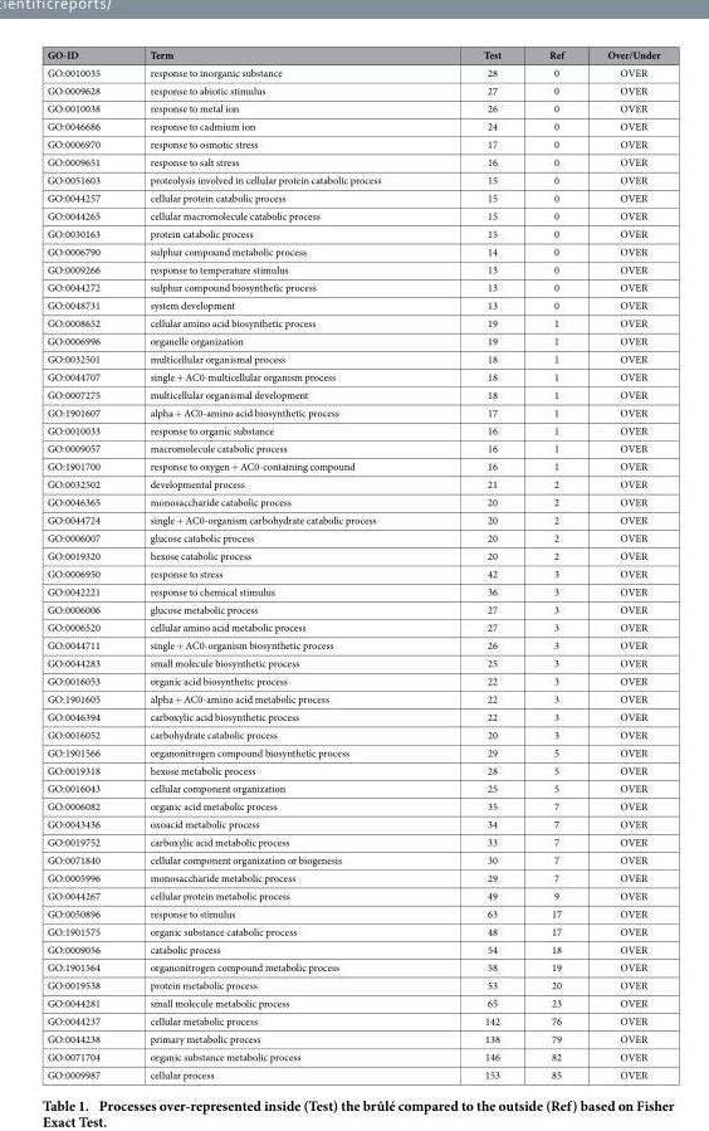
<table><thead><tr><td>GO-ID</td><td>Term</td><td>Test</td><td>Ref</td><td>Over/Under</td></tr></thead><tbody><tr><td>GO:0010035</td><td>response to inorganic substance</td><td>28</td><td>0</td><td>OVER</td></tr><tr><td>GO:0009628</td><td>response to abiotic stimulus</td><td>27</td><td>0</td><td>OVER</td></tr><tr><td>GO:0010038</td><td>response to metal ion</td><td>26</td><td>0</td><td>OVER</td></tr><tr><td>GO:0046686</td><td>response to cadmium ion</td><td>24</td><td>0</td><td>OVER</td></tr><tr><td>GO:0006970</td><td>response to osmotic stress</td><td>17</td><td>0</td><td>OVER</td></tr><tr><td>GO:0009651</td><td>response to salt stress</td><td>16</td><td>0</td><td>OVER</td></tr><tr><td>GO:0051603</td><td>proteolysis involved in cellular protein catabolic process</td><td>15</td><td>0</td><td>OVER</td></tr><tr><td>GO:0044257</td><td>cellular protein catabolic process</td><td>15</td><td>0</td><td>OVER</td></tr><tr><td>GO:0044265</td><td>cellular macromolecule catabolic process</td><td>15</td><td>0</td><td>OVER</td></tr><tr><td>GO:0030163</td><td>protein catabolic process</td><td>15</td><td>0</td><td>OVER</td></tr><tr><td>GO:0006790</td><td>sulphur compound metabolic process</td><td>14</td><td>0</td><td>OVER</td></tr><tr><td>GO:0009266</td><td>response to temperature stimulus</td><td>13</td><td>0</td><td>OVER</td></tr><tr><td>GO:0044272</td><td>sulphur compound biosynthetic process</td><td>13</td><td>0</td><td>OVER</td></tr><tr><td>GO:0048731</td><td>system development</td><td>13</td><td>0</td><td>OVER</td></tr><tr><td>GO:0008652</td><td>cellular amino acid biosynthetic process</td><td>19</td><td>1</td><td>OVER</td></tr><tr><td>GO:0006996</td><td>organelle organization</td><td>19</td><td>1</td><td>OVER</td></tr><tr><td>GO:0032501</td><td>multicellular organismal process</td><td>18</td><td>1</td><td>OVER</td></tr><tr><td>GO:0044707</td><td>single + AC0-multicellular organism process</td><td>18</td><td>1</td><td>OVER</td></tr><tr><td>GO:0007275</td><td>multicellular organismal development</td><td>18</td><td>1</td><td>OVER</td></tr><tr><td>GO:1901607</td><td>alpha + AC0-amino acid biosynthetic process</td><td>17</td><td>1</td><td>OVER</td></tr><tr><td>GO:0010033</td><td>response to organic substance</td><td>16</td><td>1</td><td>OVER</td></tr><tr><td>GO:0009057</td><td>macromolecule catabolic process</td><td>16</td><td>1</td><td>OVER</td></tr><tr><td>GO:1901700</td><td>response to oxygen + AC0-containing compound</td><td>16</td><td>1</td><td>OVER</td></tr><tr><td>GO:0032502</td><td>developmental process</td><td>21</td><td>2</td><td>OVER</td></tr><tr><td>GO:0046365</td><td>monosaccharide catabolic process</td><td>20</td><td>2</td><td>OVER</td></tr><tr><td>GO:0044724</td><td>single + AC0-organism carbohydrate catabolic process</td><td>20</td><td>2</td><td>OVER</td></tr><tr><td>GO:0006007</td><td>glucose catabolic process</td><td>20</td><td>2</td><td>OVER</td></tr><tr><td>GO:0019320</td><td>hexose catabolic process</td><td>20</td><td>2</td><td>OVER</td></tr><tr><td>GO:0006950</td><td>response to stress</td><td>42</td><td>3</td><td>OVER</td></tr><tr><td>GO:0042221</td><td>response to chemical stimulus</td><td>36</td><td>3</td><td>OVER</td></tr><tr><td>GO:0006006</td><td>glucose metabolic process</td><td>27</td><td>3</td><td>OVER</td></tr><tr><td>GO:0006520</td><td>cellular amino acid metabolic process</td><td>27</td><td>3</td><td>OVER</td></tr><tr><td>GO:0044711</td><td>single + AC0-organism biosynthetic process</td><td>26</td><td>3</td><td>OVER</td></tr><tr><td>GO:0044283</td><td>small molecule biosynthetic process</td><td>25</td><td>3</td><td>OVER</td></tr><tr><td>GO:0016053</td><td>organic acid biosynthetic process</td><td>22</td><td>3</td><td>OVER</td></tr><tr><td>GO:1901605</td><td>alpha + AC0-amino acid metabolic process</td><td>22</td><td>3</td><td>OVER</td></tr><tr><td>GO:0046394</td><td>carboxylic acid biosynthetic process</td><td>22</td><td>3</td><td>OVER</td></tr><tr><td>GO:0016052</td><td>carbohydrate catabolic process</td><td>20</td><td>3</td><td>OVER</td></tr><tr><td>GO:1901566</td><td>organonitrogen compound biosynthetic process</td><td>29</td><td>5</td><td>OVER</td></tr><tr><td>GO:0019318</td><td>hexose metabolic process</td><td>28</td><td>5</td><td>OVER</td></tr><tr><td>GO:0016043</td><td>cellular component organization</td><td>25</td><td>5</td><td>OVER</td></tr><tr><td>GO:0006082</td><td>organic acid metabolic process</td><td>35</td><td>7</td><td>OVER</td></tr><tr><td>GO:0043436</td><td>oxoacid metabolic process</td><td>34</td><td>7</td><td>OVER</td></tr><tr><td>GO:0019752</td><td>carboxylic acid metabolic process</td><td>33</td><td>7</td><td>OVER</td></tr><tr><td>GO:0071840</td><td>cellular component organization or biogenesis</td><td>30</td><td>7</td><td>OVER</td></tr><tr><td>GO:0005996</td><td>monosaccharide metabolic process</td><td>29</td><td>7</td><td>OVER</td></tr><tr><td>GO:0044267</td><td>cellular protein metabolic process</td><td>49</td><td>9</td><td>OVER</td></tr><tr><td>GO:0050896</td><td>response to stimulus</td><td>63</td><td>17</td><td>OVER</td></tr><tr><td>GO:1901575</td><td>organic substance catabolic process</td><td>48</td><td>17</td><td>OVER</td></tr><tr><td>GO:0009056</td><td>catabolic process</td><td>54</td><td>18</td><td>OVER</td></tr><tr><td>GO:1901564</td><td>organonitrogen compound metabolic process</td><td>58</td><td>19</td><td>OVER</td></tr><tr><td>GO:0019538</td><td>protein metabolic process</td><td>53</td><td>20</td><td>OVER</td></tr><tr><td>GO:0044281</td><td>small molecule metabolic process</td><td>65</td><td>23</td><td>OVER</td></tr><tr><td>GO:0044237</td><td>cellular metabolic process</td><td>142</td><td>76</td><td>OVER</td></tr><tr><td>GO:0044238</td><td>primary metabolic process</td><td>138</td><td>79</td><td>OVER</td></tr><tr><td>GO:0071704</td><td>organic substance metabolic process</td><td>146</td><td>82</td><td>OVER</td></tr><tr><td>GO:0009987</td><td>cellular process</td><td>153</td><td>85</td><td>OVER</td></tr></tbody></table>